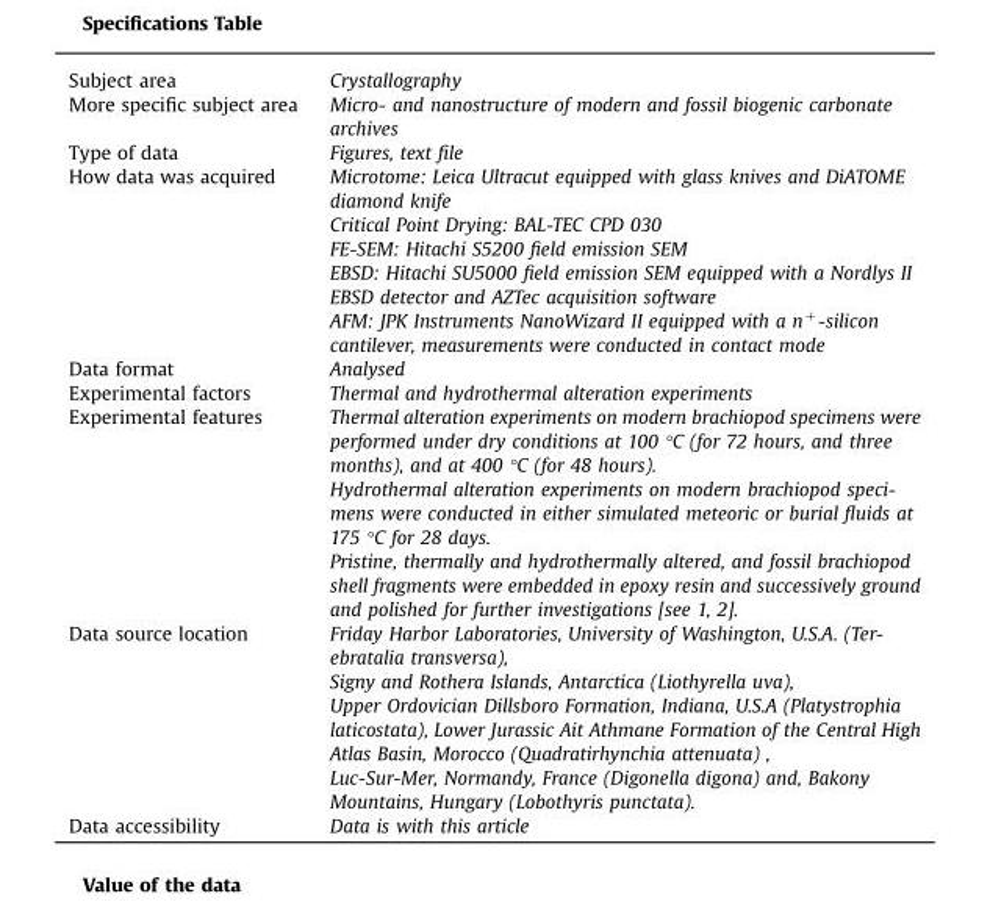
<table><thead><tr><td>Subject area</td><td>Crystallography</td></tr></thead><tbody><tr><td>More specific subject area</td><td>Micro- and nanostructure of modern and fossil biogenic carbonate archives</td></tr><tr><td>Type of data</td><td>Figures, text file</td></tr><tr><td rowspan="5">How data was acquired</td><td>Microtome: Leica Ultracut equipped with glass knives and DiATOME diamond knife</td></tr><tr><td>Critical Point Drying: BAL-TEC CPD 030</td></tr><tr><td>FE-SEM: Hitachi S5200 field emission SEM</td></tr><tr><td>EBSD: Hitachi SU5000 field emission SEM equipped with a Nordlys II EBSD detector and AZTec acquisition software</td></tr><tr><td>AFM: JPK Instruments NanoWizard II equipped with a n<sup>+</sup>-silicon cantilever, measurements were conducted in contact mode</td></tr><tr><td>Data format</td><td>Analysed</td></tr><tr><td>Experimental factors</td><td>Thermal and hydrothermal alteration experiments</td></tr><tr><td rowspan="3">Experimental features</td><td>Thermal alteration experiments on modern brachiopod specimens were performed under dry conditions at 100 °C (for 72 hours, and three months), and at 400 °C (for 48 hours).</td></tr><tr><td>Hydrothermal alteration experiments on modern brachiopod speci- mens were conducted in either simulated meteoric or burial fluids at 175 °C for 28 days.</td></tr><tr><td>Pristine, thermally and hydrothermally altered, and fossil brachiopod shell fragments were embedded in epoxy resin and successively ground and polished for further investigations [see 1, 2].</td></tr><tr><td rowspan="4">Data source location</td><td>Friday Harbor Laboratories, University of Washington, U.S.A. (Ter- ebratalia transversa),</td></tr><tr><td>Signy and Rothera Islands, Antarctica (Liothyrella uva),</td></tr><tr><td>Upper Ordovician Dillsboro Formation, Indiana, U.S.A (Platystrophia laticostata), Lower Jurassic Ait Athmane Formation of the Central High Atlas Basin, Morocco (Quadratirhynchia attenuata) ,</td></tr><tr><td>Luc-Sur-Mer, Normandy, France (Digonella digona) and, Bakony Mountains, Hungary (Lobothyris punctata).</td></tr><tr><td>Data accessibility</td><td>Data is with this article</td></tr></tbody></table>